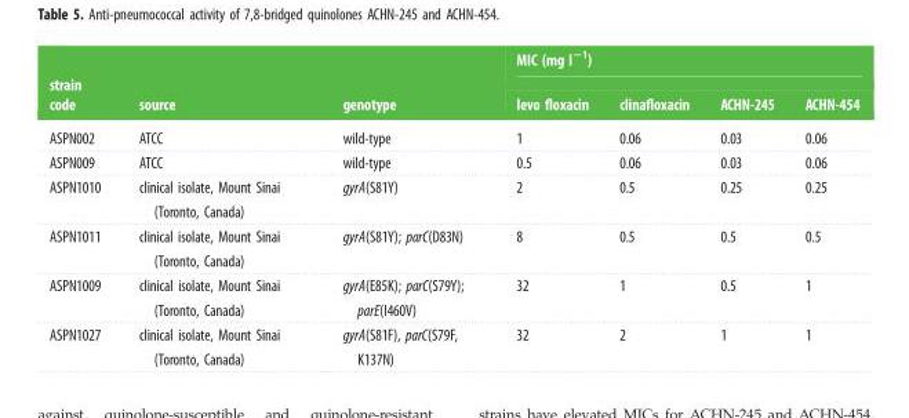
<table><thead><tr><td rowspan="2">strain code</td><td rowspan="2">source</td><td rowspan="2">genotype</td><td colspan="4">MIC (mg l<sup>−1</sup>)</td></tr><tr><td>levo floxacin</td><td>clinafloxacin</td><td>ACHN-245</td><td>ACHN-454</td></tr></thead><tbody><tr><td>ASPN002</td><td>ATCC</td><td>wild-type</td><td>1</td><td>0.06</td><td>0.03</td><td>0.06</td></tr><tr><td>ASPN009</td><td>ATCC</td><td>wild-type</td><td>0.5</td><td>0.06</td><td>0.03</td><td>0.06</td></tr><tr><td>ASPN1010</td><td>clinical isolate, Mount Sinai (Toronto, Canada)</td><td>gyrA(S81Y)</td><td>2</td><td>0.5</td><td>0.25</td><td>0.25</td></tr><tr><td>ASPN1011</td><td>clinical isolate, Mount Sinai (Toronto, Canada)</td><td>gyrA(S81Y); parC(D83N)</td><td>8</td><td>0.5</td><td>0.5</td><td>0.5</td></tr><tr><td>ASPN1009</td><td>clinical isolate, Mount Sinai (Toronto, Canada)</td><td>gyrA(E85K); parC(S79Y); parE(I460V)</td><td>32</td><td>1</td><td>0.5</td><td>1</td></tr><tr><td>ASPN1027</td><td>clinical isolate, Mount Sinai (Toronto, Canada)</td><td>gyrA(S81F), parC(S79F, K137N)</td><td>32</td><td>2</td><td>1</td><td>1</td></tr></tbody></table>